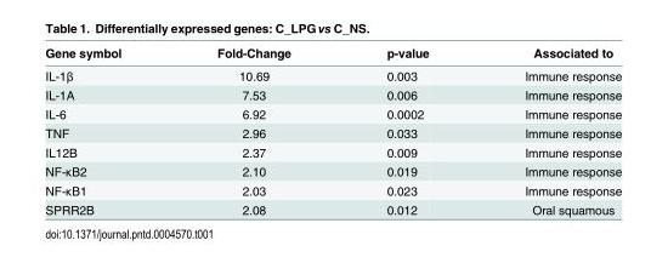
<table><thead><tr><td>Gene symbol</td><td>Fold-Change</td><td>p-value</td><td>Associated to</td></tr></thead><tbody><tr><td>IL-1β</td><td>10.69</td><td>0.003</td><td>Immune response</td></tr><tr><td>IL-1A</td><td>7.53</td><td>0.006</td><td>Immune response</td></tr><tr><td>IL-6</td><td>6.92</td><td>0.0002</td><td>Immune response</td></tr><tr><td>TNF</td><td>2.96</td><td>0.033</td><td>Immune response</td></tr><tr><td>IL12B</td><td>2.37</td><td>0.009</td><td>Immune response</td></tr><tr><td>NF-κB2</td><td>2.10</td><td>0.019</td><td>Immune response</td></tr><tr><td>NF-κB1</td><td>2.03</td><td>0.023</td><td>Immune response</td></tr><tr><td>SPRR2B</td><td>2.08</td><td>0.012</td><td>Oral squamous</td></tr></tbody></table>